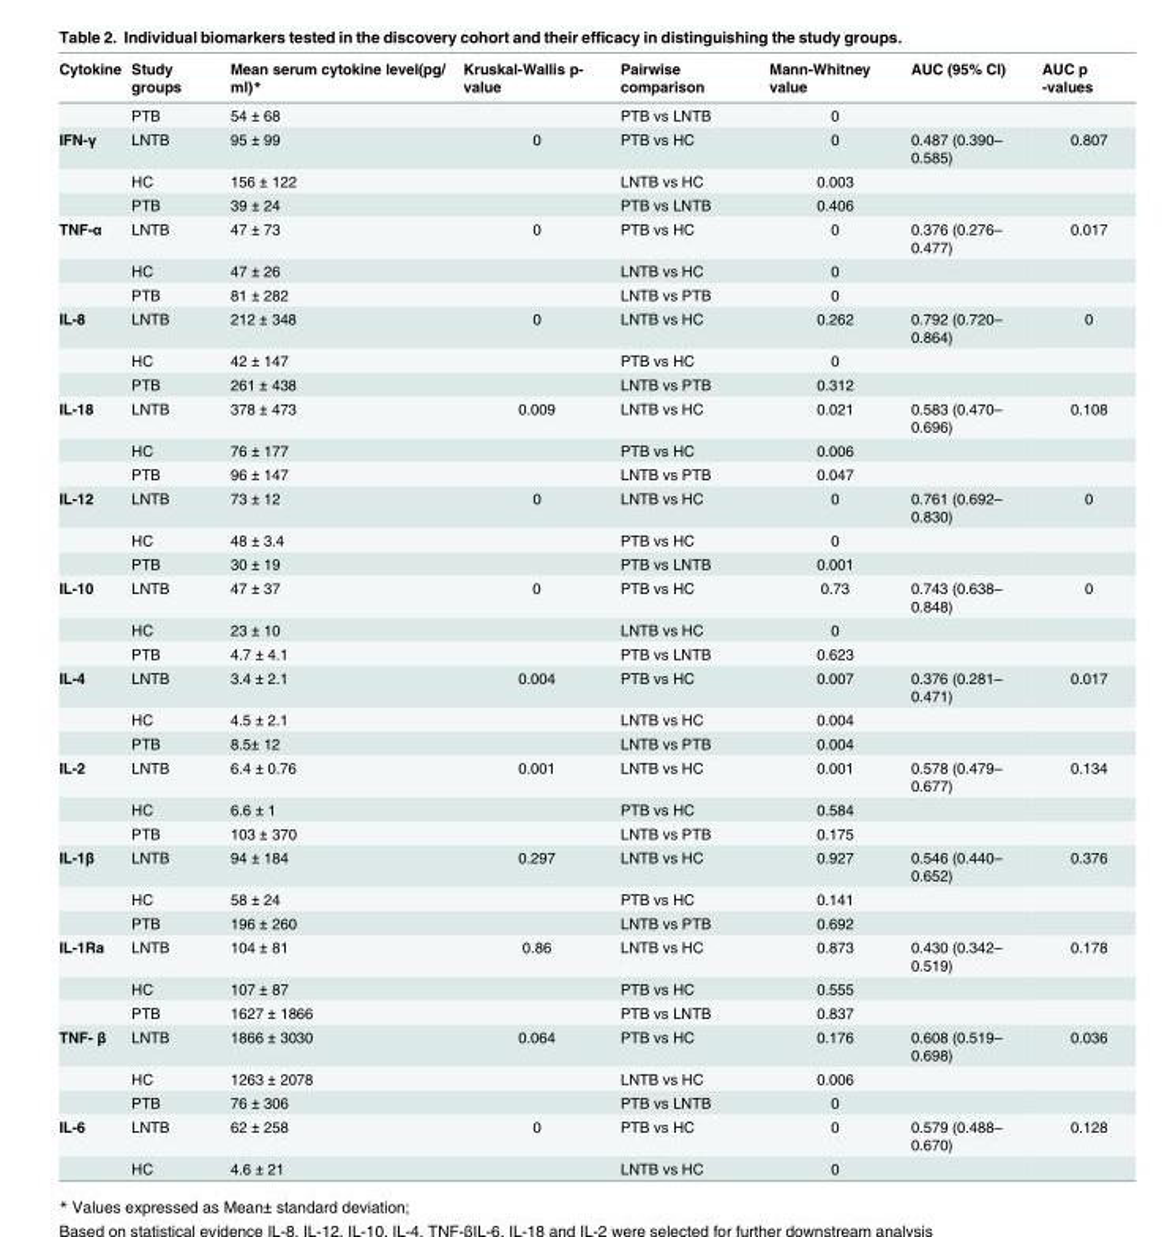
<table><thead><tr><td>Cytokine</td><td>Study groups</td><td>Mean serum cytokine level(pg/ ml)*</td><td>Kruskal-Wallis p- value</td><td>Pairwise comparison</td><td>Mann-Whitney value</td><td>AUC (95% CI)</td><td>AUC p -values</td></tr></thead><tbody><tr><td></td><td>PTB</td><td>54 ± 68</td><td></td><td>PTB vs LNTB</td><td>0</td><td></td><td></td></tr><tr><td rowspan="3">IFN-γ</td><td>LNTB</td><td>95 ± 99</td><td>0</td><td>PTB vs HC</td><td>0</td><td>0.487 (0.390– 0.585)</td><td>0.807</td></tr><tr><td>HC</td><td>156 ± 122</td><td></td><td>LNTB vs HC</td><td>0.003</td><td></td><td></td></tr><tr><td>PTB</td><td>39 ± 24</td><td></td><td>PTB vs LNTB</td><td>0.406</td><td></td><td></td></tr><tr><td rowspan="3">TNF-α</td><td>LNTB</td><td>47 ± 73</td><td>0</td><td>PTB vs HC</td><td>0</td><td>0.376 (0.276– 0.477)</td><td>0.017</td></tr><tr><td>HC</td><td>47 ± 26</td><td></td><td>LNTB vs HC</td><td>0</td><td></td><td></td></tr><tr><td>PTB</td><td>81 ± 282</td><td></td><td>LNTB vs PTB</td><td>0</td><td></td><td></td></tr><tr><td rowspan="3">IL-8</td><td>LNTB</td><td>212 ± 348</td><td>0</td><td>LNTB vs HC</td><td>0.262</td><td>0.792 (0.720– 0.864)</td><td>0</td></tr><tr><td>HC</td><td>42 ± 147</td><td></td><td>PTB vs HC</td><td>0</td><td></td><td></td></tr><tr><td>PTB</td><td>261 ± 438</td><td></td><td>LNTB vs PTB</td><td>0.312</td><td></td><td></td></tr><tr><td rowspan="3">IL-18</td><td>LNTB</td><td>378 ± 473</td><td>0.009</td><td>LNTB vs HC</td><td>0.021</td><td>0.583 (0.470– 0.696)</td><td>0.108</td></tr><tr><td>HC</td><td>76 ± 177</td><td></td><td>PTB vs HC</td><td>0.006</td><td></td><td></td></tr><tr><td>PTB</td><td>96 ± 147</td><td></td><td>LNTB vs PTB</td><td>0.047</td><td></td><td></td></tr><tr><td rowspan="3">IL-12</td><td>LNTB</td><td>73 ± 12</td><td>0</td><td>LNTB vs HC</td><td>0</td><td>0.761 (0.692– 0.830)</td><td>0</td></tr><tr><td>HC</td><td>48 ± 3.4</td><td></td><td>PTB vs HC</td><td>0</td><td></td><td></td></tr><tr><td>PTB</td><td>30 ± 19</td><td></td><td>PTB vs LNTB</td><td>0.001</td><td></td><td></td></tr><tr><td rowspan="3">IL-10</td><td>LNTB</td><td>47 ± 37</td><td>0</td><td>PTB vs HC</td><td>0.73</td><td>0.743 (0.638– 0.848)</td><td>0</td></tr><tr><td>HC</td><td>23 ± 10</td><td></td><td>LNTB vs HC</td><td>0</td><td></td><td></td></tr><tr><td>PTB</td><td>4.7 ± 4.1</td><td></td><td>PTB vs LNTB</td><td>0.623</td><td></td><td></td></tr><tr><td rowspan="3">IL-4</td><td>LNTB</td><td>3.4 ± 2.1</td><td>0.004</td><td>PTB vs HC</td><td>0.007</td><td>0.376 (0.281– 0.471)</td><td>0.017</td></tr><tr><td>HC</td><td>4.5 ± 2.1</td><td></td><td>LNTB vs HC</td><td>0.004</td><td></td><td></td></tr><tr><td>PTB</td><td>8.5± 12</td><td></td><td>LNTB vs PTB</td><td>0.004</td><td></td><td></td></tr><tr><td rowspan="3">IL-2</td><td>LNTB</td><td>6.4 ± 0.76</td><td>0.001</td><td>LNTB vs HC</td><td>0.001</td><td>0.578 (0.479– 0.677)</td><td>0.134</td></tr><tr><td>HC</td><td>6.6 ± 1</td><td></td><td>PTB vs HC</td><td>0.584</td><td></td><td></td></tr><tr><td>PTB</td><td>103 ± 370</td><td></td><td>LNTB vs PTB</td><td>0.175</td><td></td><td></td></tr><tr><td rowspan="3">IL-1β</td><td>LNTB</td><td>94 ± 184</td><td>0.297</td><td>LNTB vs HC</td><td>0.927</td><td>0.546 (0.440– 0.652)</td><td>0.376</td></tr><tr><td>HC</td><td>58 ± 24</td><td></td><td>PTB vs HC</td><td>0.141</td><td></td><td></td></tr><tr><td>PTB</td><td>196 ± 260</td><td></td><td>LNTB vs PTB</td><td>0.692</td><td></td><td></td></tr><tr><td rowspan="3">IL-1Ra</td><td>LNTB</td><td>104 ± 81</td><td>0.86</td><td>LNTB vs HC</td><td>0.873</td><td>0.430 (0.342– 0.519)</td><td>0.178</td></tr><tr><td>HC</td><td>107 ± 87</td><td></td><td>PTB vs HC</td><td>0.555</td><td></td><td></td></tr><tr><td>PTB</td><td>1627 ± 1866</td><td></td><td>PTB vs LNTB</td><td>0.837</td><td></td><td></td></tr><tr><td rowspan="3">TNF- β</td><td>LNTB</td><td>1866 ± 3030</td><td>0.064</td><td>PTB vs HC</td><td>0.176</td><td>0.608 (0.519– 0.698)</td><td>0.036</td></tr><tr><td>HC</td><td>1263 ± 2078</td><td></td><td>LNTB vs HC</td><td>0.006</td><td></td><td></td></tr><tr><td>PTB</td><td>76 ± 306</td><td></td><td>PTB vs LNTB</td><td>0</td><td></td><td></td></tr><tr><td rowspan="2">IL-6</td><td>LNTB</td><td>62 ± 258</td><td>0</td><td>PTB vs HC</td><td>0</td><td>0.579 (0.488– 0.670)</td><td>0.128</td></tr><tr><td>HC</td><td>4.6 ± 21</td><td></td><td>LNTB vs HC</td><td>0</td><td></td><td></td></tr></tbody></table>